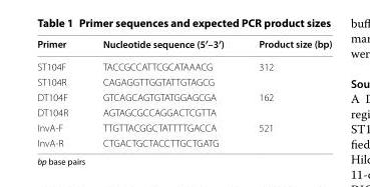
<table><thead><tr><td>Primer</td><td>Nucleotide sequence (5′–3′)</td><td>Product size (bp)</td></tr></thead><tbody><tr><td>ST104F</td><td>TACCGCCATTCGCATAAACG</td><td rowspan="2">312</td></tr><tr><td>ST104R</td><td>CAGAGGTTGGTATTGTAGCG</td></tr><tr><td>DT104F</td><td>GTCAGCAGTGTATGGAGCGA</td><td rowspan="2">162</td></tr><tr><td>DT104R</td><td>AGTAGCGCCAGGACTCGTTA</td></tr><tr><td>InvA-F</td><td>TTGTTACGGCTATTTTGACCA</td><td rowspan="2">521</td></tr><tr><td>InvA-R</td><td>CTGACTGCTACCTTGCTGATG</td></tr></tbody></table>